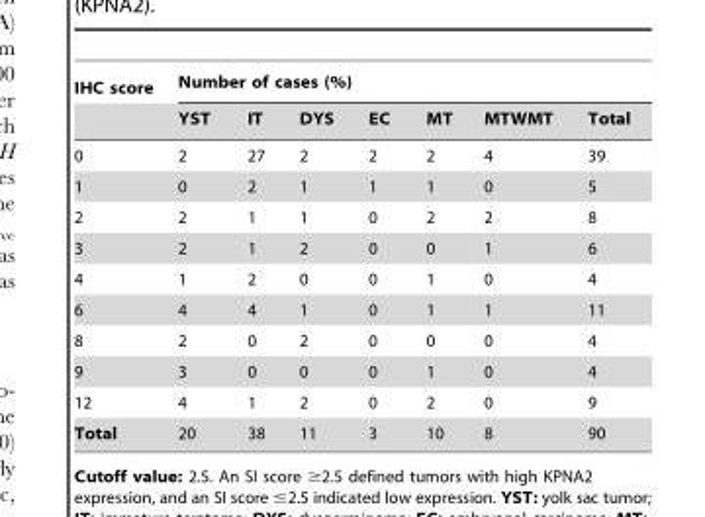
<table><thead><tr><td rowspan="2">IHC score</td><td colspan="7">Number of cases (%)</td></tr><tr><td>YST</td><td>IT</td><td>DYS</td><td>EC</td><td>MT</td><td>MTWMT</td><td>Total</td></tr></thead><tbody><tr><td>0</td><td>2</td><td>27</td><td>2</td><td>2</td><td>2</td><td>4</td><td>39</td></tr><tr><td>1</td><td>0</td><td>2</td><td>1</td><td>1</td><td>1</td><td>0</td><td>5</td></tr><tr><td>2</td><td>2</td><td>1</td><td>1</td><td>0</td><td>2</td><td>2</td><td>8</td></tr><tr><td>3</td><td>2</td><td>1</td><td>2</td><td>0</td><td>0</td><td>1</td><td>6</td></tr><tr><td>4</td><td>1</td><td>2</td><td>0</td><td>0</td><td>1</td><td>0</td><td>4</td></tr><tr><td>6</td><td>4</td><td>4</td><td>1</td><td>0</td><td>1</td><td>1</td><td>11</td></tr><tr><td>8</td><td>2</td><td>0</td><td>2</td><td>0</td><td>0</td><td>0</td><td>4</td></tr><tr><td>9</td><td>3</td><td>0</td><td>0</td><td>0</td><td>1</td><td>0</td><td>4</td></tr><tr><td>12</td><td>4</td><td>1</td><td>2</td><td>0</td><td>2</td><td>0</td><td>9</td></tr><tr><td>Total</td><td>20</td><td>38</td><td>11</td><td>3</td><td>10</td><td>8</td><td>90</td></tr></tbody></table>